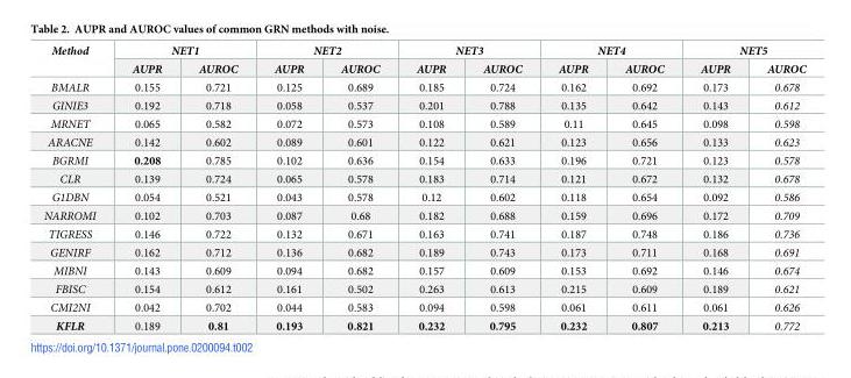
<table><thead><tr><td rowspan="2">Method</td><td colspan="2">NET1</td><td colspan="2">NET2</td><td colspan="2">NET3</td><td colspan="2">NET4</td><td colspan="2">NET5</td></tr><tr><td>AUPR</td><td>AUROC</td><td>AUPR</td><td>AUROC</td><td>AUPR</td><td>AUROC</td><td>AUPR</td><td>AUROC</td><td>AUPR</td><td>AUROC</td></tr></thead><tbody><tr><td>BMALR</td><td>0.155</td><td>0.721</td><td>0.125</td><td>0.689</td><td>0.185</td><td>0.724</td><td>0.162</td><td>0.692</td><td>0.173</td><td>0.678</td></tr><tr><td>GINIE3</td><td>0.192</td><td>0.718</td><td>0.058</td><td>0.537</td><td>0.201</td><td>0.788</td><td>0.135</td><td>0.642</td><td>0.143</td><td>0.612</td></tr><tr><td>MRNET</td><td>0.065</td><td>0.582</td><td>0.072</td><td>0.573</td><td>0.108</td><td>0.589</td><td>0.11</td><td>0.645</td><td>0.098</td><td>0.598</td></tr><tr><td>ARACNE</td><td>0.142</td><td>0.602</td><td>0.089</td><td>0.601</td><td>0.122</td><td>0.621</td><td>0.123</td><td>0.656</td><td>0.133</td><td>0.623</td></tr><tr><td>BGRMI</td><td>0.208</td><td>0.785</td><td>0.102</td><td>0.636</td><td>0.154</td><td>0.633</td><td>0.196</td><td>0.721</td><td>0.123</td><td>0.578</td></tr><tr><td>CLR</td><td>0.139</td><td>0.724</td><td>0.065</td><td>0.578</td><td>0.183</td><td>0.714</td><td>0.121</td><td>0.672</td><td>0.132</td><td>0.678</td></tr><tr><td>G1DBN</td><td>0.054</td><td>0.521</td><td>0.043</td><td>0.578</td><td>0.12</td><td>0.602</td><td>0.118</td><td>0.654</td><td>0.092</td><td>0.586</td></tr><tr><td>NARROMI</td><td>0.102</td><td>0.703</td><td>0.087</td><td>0.68</td><td>0.182</td><td>0.688</td><td>0.159</td><td>0.696</td><td>0.172</td><td>0.709</td></tr><tr><td>TIGRESS</td><td>0.146</td><td>0.722</td><td>0.132</td><td>0.671</td><td>0.163</td><td>0.741</td><td>0.187</td><td>0.748</td><td>0.186</td><td>0.736</td></tr><tr><td>GENIRF</td><td>0.162</td><td>0.712</td><td>0.136</td><td>0.682</td><td>0.189</td><td>0.743</td><td>0.173</td><td>0.711</td><td>0.168</td><td>0.691</td></tr><tr><td>MIBNI</td><td>0.143</td><td>0.609</td><td>0.094</td><td>0.682</td><td>0.157</td><td>0.609</td><td>0.153</td><td>0.692</td><td>0.146</td><td>0.674</td></tr><tr><td>FBISC</td><td>0.154</td><td>0.612</td><td>0.161</td><td>0.502</td><td>0.263</td><td>0.613</td><td>0.215</td><td>0.609</td><td>0.189</td><td>0.621</td></tr><tr><td>CMI2NI</td><td>0.042</td><td>0.702</td><td>0.044</td><td>0.583</td><td>0.094</td><td>0.598</td><td>0.061</td><td>0.611</td><td>0.061</td><td>0.626</td></tr><tr><td>KFLR</td><td>0.189</td><td>0.81</td><td>0.193</td><td>0.821</td><td>0.232</td><td>0.795</td><td>0.232</td><td>0.807</td><td>0.213</td><td>0.772</td></tr></tbody></table>